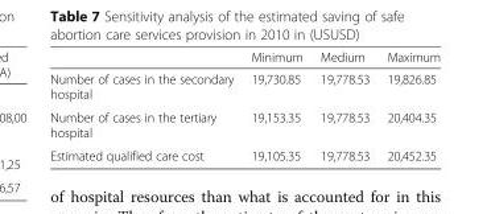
<table><thead><tr><td></td><td>Minimum</td><td>Medium</td><td>Maximum</td></tr></thead><tbody><tr><td>Number of cases in the secondary hospital</td><td>19,730.85</td><td>19,778.53</td><td>19,826.85</td></tr><tr><td>Number of cases in the tertiary hospital</td><td>19,153.35</td><td>19,778.53</td><td>20,404.35</td></tr><tr><td>Estimated qualified care cost</td><td>19,105.35</td><td>19,778.53</td><td>20,452.35</td></tr></tbody></table>